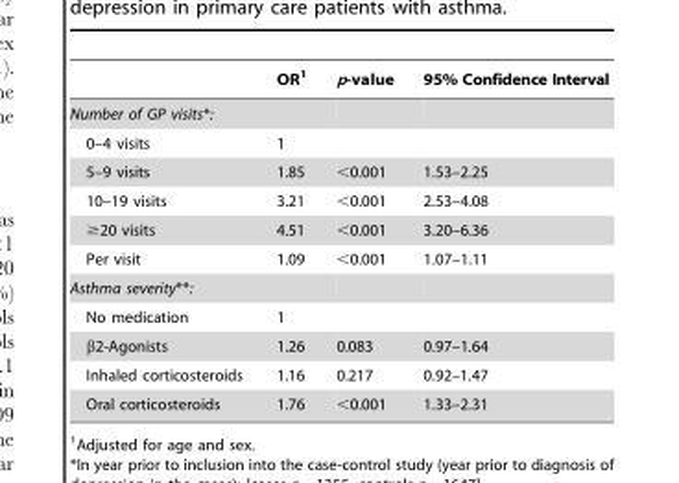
<table><thead><tr><td></td><td>OR<sup>1</sup></td><td>p-value</td><td>95% Confidence Interval</td></tr></thead><tbody><tr><td colspan="4">Number of GP visits*:</td></tr><tr><td>0–4 visits</td><td>1</td><td></td><td></td></tr><tr><td>5–9 visits</td><td>1.85</td><td>&lt;0.001</td><td>1.53–2.25</td></tr><tr><td>10–19 visits</td><td>3.21</td><td>&lt;0.001</td><td>2.53–4.08</td></tr><tr><td>≥20 visits</td><td>4.51</td><td>&lt;0.001</td><td>3.20–6.36</td></tr><tr><td>Per visit</td><td>1.09</td><td>&lt;0.001</td><td>1.07–1.11</td></tr><tr><td colspan="4">Asthma severity**:</td></tr><tr><td>No medication</td><td>1</td><td></td><td></td></tr><tr><td>β2-Agonists</td><td>1.26</td><td>0.083</td><td>0.97–1.64</td></tr><tr><td>Inhaled corticosteroids</td><td>1.16</td><td>0.217</td><td>0.92–1.47</td></tr><tr><td>Oral corticosteroids</td><td>1.76</td><td>&lt;0.001</td><td>1.33–2.31</td></tr></tbody></table>